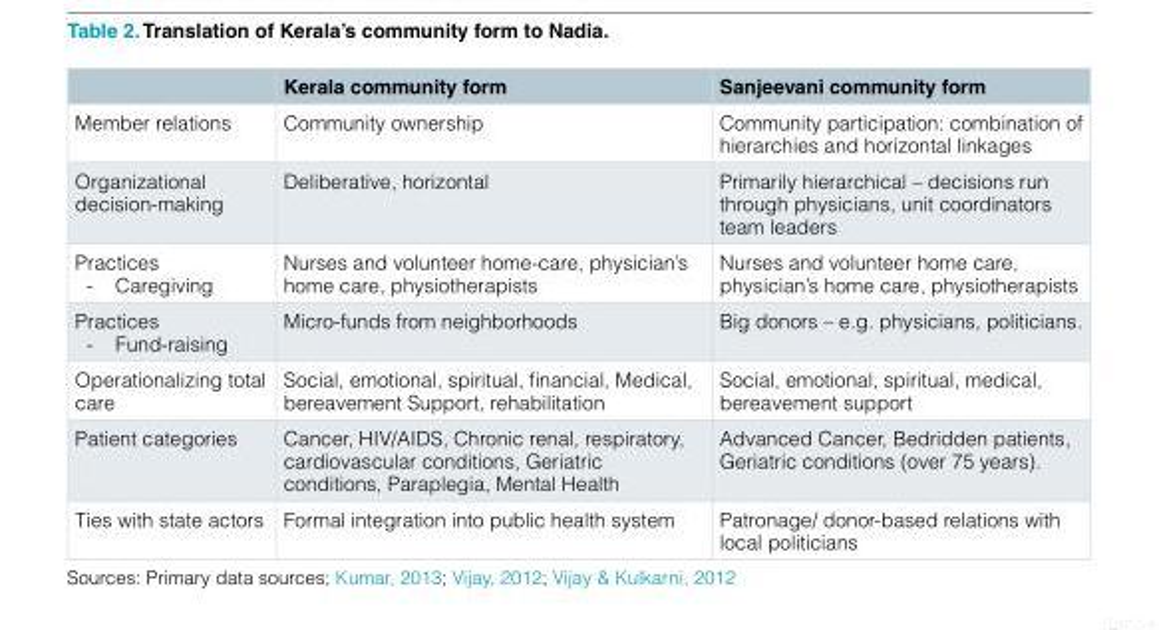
<table><thead><tr><td></td><td>Kerala community form</td><td>Sanjeevani community form</td></tr></thead><tbody><tr><td>Member relations</td><td>Community ownership</td><td>Community participation: combination of hierarchies and horizontal linkages</td></tr><tr><td>Organizational decision-making</td><td>Deliberative, horizontal</td><td>Primarily hierarchical – decisions run through physicians, unit coordinators team leaders</td></tr><tr><td>Practices - Caregiving</td><td>Nurses and volunteer home-care, physician’s home care, physiotherapists</td><td>Nurses and volunteer home care, physician’s home care, physiotherapists</td></tr><tr><td>Practices - Fund-raising</td><td>Micro-funds from neighborhoods</td><td>Big donors – e.g. physicians, politicians.</td></tr><tr><td>Operationalizing total care</td><td>Social, emotional, spiritual, financial, Medical, bereavement Support, rehabilitation</td><td>Social, emotional, spiritual, medical, bereavement support</td></tr><tr><td>Patient categories</td><td>Cancer, HIV/AIDS, Chronic renal, respiratory, cardiovascular conditions, Geriatric conditions, Paraplegia, Mental Health</td><td>Advanced Cancer, Bedridden patients, Geriatric conditions (over 75 years).</td></tr><tr><td>Ties with state actors</td><td>Formal integration into public health system</td><td>Patronage/ donor-based relations with local politicians</td></tr></tbody></table>